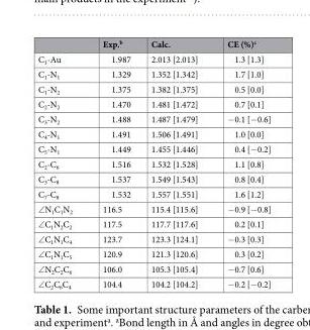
<table><thead><tr><td></td><td>Exp.<sup>b</sup></td><td>Calc.</td><td>CE (%)<sup>c</sup></td></tr></thead><tbody><tr><td>C<sub>1</sub>-Au</td><td>1.987</td><td>2.013 [2.013]</td><td>1.3 [1.3]</td></tr><tr><td>C<sub>1</sub>-N<sub>1</sub></td><td>1.329</td><td>1.352 [1.342]</td><td>1.7 [1.0]</td></tr><tr><td>C<sub>1</sub>-N<sub>2</sub></td><td>1.375</td><td>1.382 [1.375]</td><td>0.5 [0.0]</td></tr><tr><td>C<sub>2</sub>-N<sub>2</sub></td><td>1.470</td><td>1.481 [1.472]</td><td>0.7 [0.1]</td></tr><tr><td>C<sub>3</sub>-N<sub>2</sub></td><td>1.488</td><td>1.487 [1.479]</td><td>−0.1 [−0.6]</td></tr><tr><td>C<sub>4</sub>-N<sub>1</sub></td><td>1.491</td><td>1.506 [1.491]</td><td>1.0 [0.0]</td></tr><tr><td>C<sub>5</sub>-N<sub>1</sub></td><td>1.449</td><td>1.455 [1.446]</td><td>0.4 [−0.2]</td></tr><tr><td>C<sub>2</sub>-C<sub>6</sub></td><td>1.516</td><td>1.532 [1.528]</td><td>1.1 [0.8]</td></tr><tr><td>C<sub>3</sub>-C<sub>8</sub></td><td>1.537</td><td>1.549 [1.543]</td><td>0.8 [0.4]</td></tr><tr><td>C<sub>7</sub>-C<sub>8</sub></td><td>1.532</td><td>1.557 [1.551]</td><td>1.6 [1.2]</td></tr><tr><td>∠N<sub>1</sub>C<sub>1</sub>N<sub>2</sub></td><td>116.5</td><td>115.4 [115.6]</td><td>−0.9 [−0.8]</td></tr><tr><td>∠C<sub>1</sub>N<sub>2</sub>C<sub>2</sub></td><td>117.5</td><td>117.7 [117.6]</td><td>0.2 [0.1]</td></tr><tr><td>∠C<sub>1</sub>N<sub>1</sub>C<sub>4</sub></td><td>123.7</td><td>123.3 [124.1]</td><td>−0.3 [0.3]</td></tr><tr><td>∠C<sub>1</sub>N<sub>1</sub>C<sub>5</sub></td><td>120.9</td><td>121.3 [120.6]</td><td>0.3 [0.2]</td></tr><tr><td>∠N<sub>2</sub>C<sub>2</sub>C<sub>6</sub></td><td>106.0</td><td>105.3 [105.4]</td><td>−0.7 [0.6]</td></tr><tr><td>∠C<sub>2</sub>C<sub>6</sub>C<sub>4</sub></td><td>104.4</td><td>104.2 [104.2]</td><td>−0.2 [−0.2]</td></tr></tbody></table>